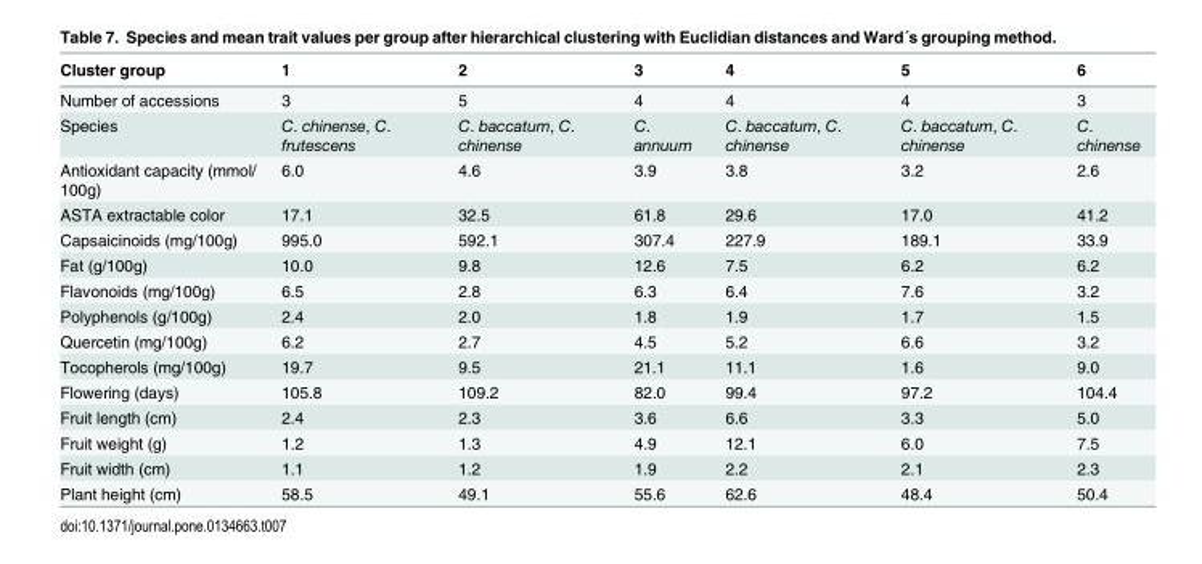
<table><thead><tr><td>Cluster group</td><td>1</td><td>2</td><td>3</td><td>4</td><td>5</td><td>6</td></tr></thead><tbody><tr><td>Number of accessions</td><td>3</td><td>5</td><td>4</td><td>4</td><td>4</td><td>3</td></tr><tr><td>Species</td><td>C. chinense, C. frutescens</td><td>C. baccatum, C. chinense</td><td>C. annuum</td><td>C. baccatum, C. chinense</td><td>C. baccatum, C. chinense</td><td>C. chinense</td></tr><tr><td>Antioxidant capacity (mmol/ 100g)</td><td>6.0</td><td>4.6</td><td>3.9</td><td>3.8</td><td>3.2</td><td>2.6</td></tr><tr><td>ASTA extractable color</td><td>17.1</td><td>32.5</td><td>61.8</td><td>29.6</td><td>17.0</td><td>41.2</td></tr><tr><td>Capsaicinoids (mg/100g)</td><td>995.0</td><td>592.1</td><td>307.4</td><td>227.9</td><td>189.1</td><td>33.9</td></tr><tr><td>Fat (g/100g)</td><td>10.0</td><td>9.8</td><td>12.6</td><td>7.5</td><td>6.2</td><td>6.2</td></tr><tr><td>Flavonoids (mg/100g)</td><td>6.5</td><td>2.8</td><td>6.3</td><td>6.4</td><td>7.6</td><td>3.2</td></tr><tr><td>Polyphenols (g/100g)</td><td>2.4</td><td>2.0</td><td>1.8</td><td>1.9</td><td>1.7</td><td>1.5</td></tr><tr><td>Quercetin (mg/100g)</td><td>6.2</td><td>2.7</td><td>4.5</td><td>5.2</td><td>6.6</td><td>3.2</td></tr><tr><td>Tocopherols (mg/100g)</td><td>19.7</td><td>9.5</td><td>21.1</td><td>11.1</td><td>1.6</td><td>9.0</td></tr><tr><td>Flowering (days)</td><td>105.8</td><td>109.2</td><td>82.0</td><td>99.4</td><td>97.2</td><td>104.4</td></tr><tr><td>Fruit length (cm)</td><td>2.4</td><td>2.3</td><td>3.6</td><td>6.6</td><td>3.3</td><td>5.0</td></tr><tr><td>Fruit weight (g)</td><td>1.2</td><td>1.3</td><td>4.9</td><td>12.1</td><td>6.0</td><td>7.5</td></tr><tr><td>Fruit width (cm)</td><td>1.1</td><td>1.2</td><td>1.9</td><td>2.2</td><td>2.1</td><td>2.3</td></tr><tr><td>Plant height (cm)</td><td>58.5</td><td>49.1</td><td>55.6</td><td>62.6</td><td>48.4</td><td>50.4</td></tr></tbody></table>